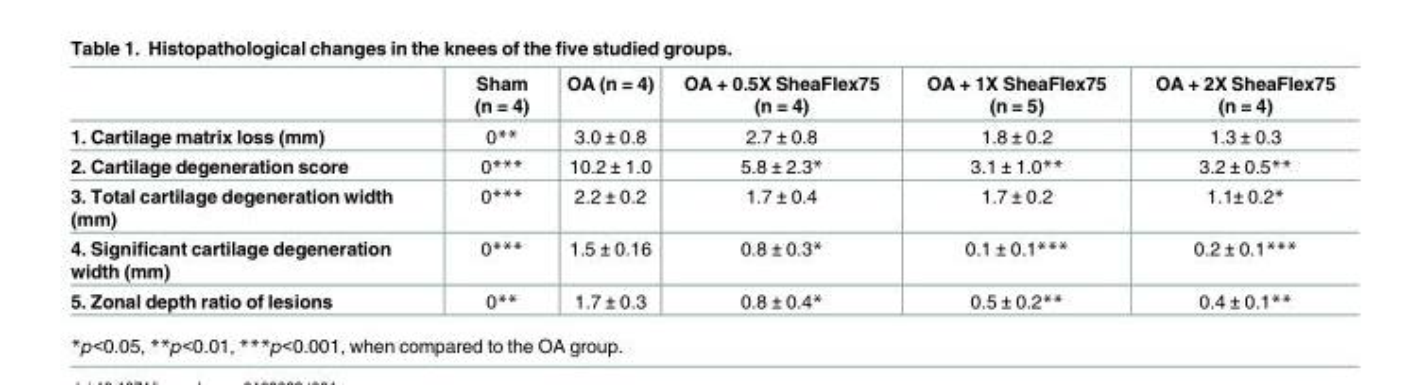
<table><thead><tr><td></td><td>Sham (n = 4)</td><td>OA (n = 4)</td><td>OA + 0.5X SheaFlex75 (n = 4)</td><td>OA + 1X SheaFlex75 (n = 5)</td><td>OA + 2X SheaFlex75 (n = 4)</td></tr></thead><tbody><tr><td>1. Cartilage matrix loss (mm)</td><td>0**</td><td>3.0 ± 0.8</td><td>2.7 ± 0.8</td><td>1.8 ± 0.2</td><td>1.3 ± 0.3</td></tr><tr><td>2. Cartilage degeneration score</td><td>0***</td><td>10.2 ± 1.0</td><td>5.8 ± 2.3*</td><td>3.1 ± 1.0**</td><td>3.2 ± 0.5**</td></tr><tr><td>3. Total cartilage degeneration width (mm)</td><td>0***</td><td>2.2 ± 0.2</td><td>1.7 ± 0.4</td><td>1.7 ± 0.2</td><td>1.1± 0.2*</td></tr><tr><td>4. Significant cartilage degeneration width (mm)</td><td>0***</td><td>1.5 ± 0.16</td><td>0.8 ± 0.3*</td><td>0.1 ± 0.1***</td><td>0.2 ± 0.1***</td></tr><tr><td>5. Zonal depth ratio of lesions</td><td>0**</td><td>1.7 ± 0.3</td><td>0.8 ± 0.4*</td><td>0.5 ± 0.2**</td><td>0.4 ± 0.1**</td></tr></tbody></table>